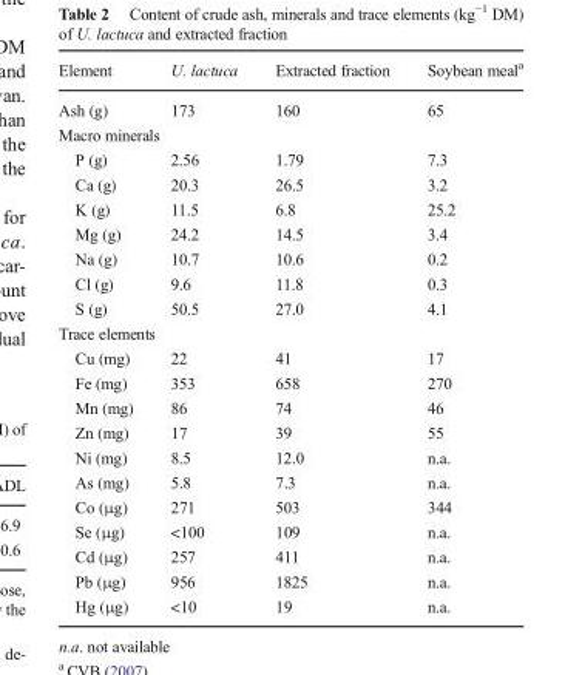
<table><thead><tr><td>Element</td><td>U. lactuca</td><td>Extracted fraction</td><td>Soybean meal<sup>a</sup></td></tr></thead><tbody><tr><td>Ash (g)</td><td>173</td><td>160</td><td>65</td></tr><tr><td colspan="4">Macro minerals</td></tr><tr><td>P (g)</td><td>2.56</td><td>1.79</td><td>7.3</td></tr><tr><td>Ca (g)</td><td>20.3</td><td>26.5</td><td>3.2</td></tr><tr><td>K (g)</td><td>11.5</td><td>6.8</td><td>25.2</td></tr><tr><td>Mg (g)</td><td>24.2</td><td>14.5</td><td>3.4</td></tr><tr><td>Na (g)</td><td>10.7</td><td>10.6</td><td>0.2</td></tr><tr><td>Cl (g)</td><td>9.6</td><td>11.8</td><td>0.3</td></tr><tr><td>S (g)</td><td>50.5</td><td>27.0</td><td>4.1</td></tr><tr><td colspan="4">Trace elements</td></tr><tr><td>Cu (mg)</td><td>22</td><td>41</td><td>17</td></tr><tr><td>Fe (mg)</td><td>353</td><td>658</td><td>270</td></tr><tr><td>Mn (mg)</td><td>86</td><td>74</td><td>46</td></tr><tr><td>Zn (mg)</td><td>17</td><td>39</td><td>55</td></tr><tr><td>Ni (mg)</td><td>8.5</td><td>12.0</td><td>n.a.</td></tr><tr><td>As (mg)</td><td>5.8</td><td>7.3</td><td>n.a.</td></tr><tr><td>Co (μg)</td><td>271</td><td>503</td><td>344</td></tr><tr><td>Se (μg)</td><td>&lt;100</td><td>109</td><td>n.a.</td></tr><tr><td>Cd (μg)</td><td>257</td><td>411</td><td>n.a.</td></tr><tr><td>Pb (μg)</td><td>956</td><td>1825</td><td>n.a.</td></tr><tr><td>Hg (μg)</td><td>&lt;10</td><td>19</td><td>n.a.</td></tr></tbody></table>